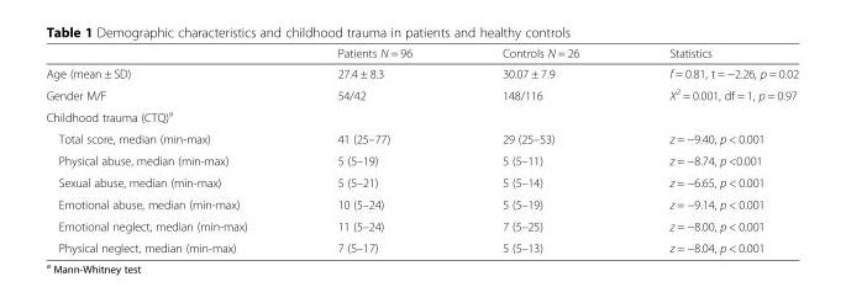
<table><thead><tr><td></td><td>Patients N = 96</td><td>Controls N = 26</td><td>Statistics</td></tr></thead><tbody><tr><td>Age (mean ± SD)</td><td>27.4 ± 8.3</td><td>30.07 ± 7.9</td><td>f = 0.81, t = −2.26, p = 0.02</td></tr><tr><td>Gender M/F</td><td>54/42</td><td>148/116</td><td>X<sup>2</sup> = 0.001, df = 1, p = 0.97</td></tr><tr><td colspan="4">Childhood trauma (CTQ)<sup>a</sup></td></tr><tr><td>Total score, median (min-max)</td><td>41 (25–77)</td><td>29 (25–53)</td><td>z = −9.40, p &lt; 0.001</td></tr><tr><td>Physical abuse, median (min-max)</td><td>5 (5–19)</td><td>5 (5–11)</td><td>z = −8.74, p &lt;0.001</td></tr><tr><td>Sexual abuse, median (min-max)</td><td>5 (5–21)</td><td>5 (5–14)</td><td>z = −6.65, p &lt; 0.001</td></tr><tr><td>Emotional abuse, median (min-max)</td><td>10 (5–24)</td><td>5 (5–19)</td><td>z = −9.14, p &lt; 0.001</td></tr><tr><td>Emotional neglect, median (min-max)</td><td>11 (5–24)</td><td>7 (5–25)</td><td>z = −8.00, p &lt; 0.001</td></tr><tr><td>Physical neglect, median (min-max)</td><td>7 (5–17)</td><td>5 (5–13)</td><td>z = −8.04, p &lt; 0.001</td></tr></tbody></table>